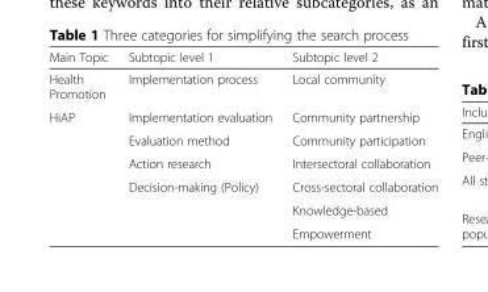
<table><thead><tr><td>Main Topic</td><td>Subtopic level 1</td><td>Subtopic level 2</td></tr></thead><tbody><tr><td>Health Promotion</td><td>Implementation process</td><td>Local community</td></tr><tr><td rowspan="6">HiAP</td><td>Implementation evaluation</td><td>Community partnership</td></tr><tr><td>Evaluation method</td><td>Community participation</td></tr><tr><td>Action research</td><td>Intersectoral collaboration</td></tr><tr><td>Decision-making (Policy)</td><td>Cross-sectoral collaboration</td></tr><tr><td></td><td>Knowledge-based</td></tr><tr><td></td><td>Empowerment</td></tr></tbody></table>